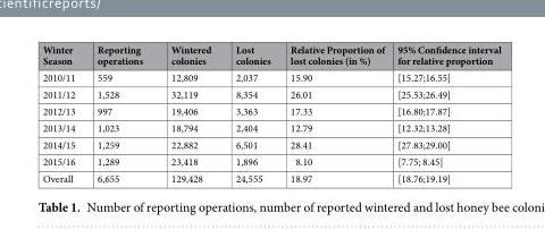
<table><thead><tr><td>Winter Season</td><td>Reporting operations</td><td>Wintered colonies</td><td>Lost colonies</td><td>Relative Proportion of lost colonies (in %)</td><td>95% Confidence interval for relative proportion</td></tr></thead><tbody><tr><td>2010/11</td><td>559</td><td>12,809</td><td>2,037</td><td>15.90</td><td>[15.27;16.55]</td></tr><tr><td>2011/12</td><td>1,528</td><td>32,119</td><td>8,354</td><td>26.01</td><td>[25.53;26.49]</td></tr><tr><td>2012/13</td><td>997</td><td>19,406</td><td>3,363</td><td>17.33</td><td>[16.80;17.87]</td></tr><tr><td>2013/14</td><td>1,023</td><td>18,794</td><td>2,404</td><td>12.79</td><td>[12.32;13.28]</td></tr><tr><td>2014/15</td><td>1,259</td><td>22,882</td><td>6,501</td><td>28.41</td><td>[27.83;29.00]</td></tr><tr><td>2015/16</td><td>1,289</td><td>23,418</td><td>1,896</td><td>8.10</td><td>[7.75; 8.45]</td></tr><tr><td>Overall</td><td>6,655</td><td>129,428</td><td>24,555</td><td>18.97</td><td>[18.76;19.19]</td></tr></tbody></table>